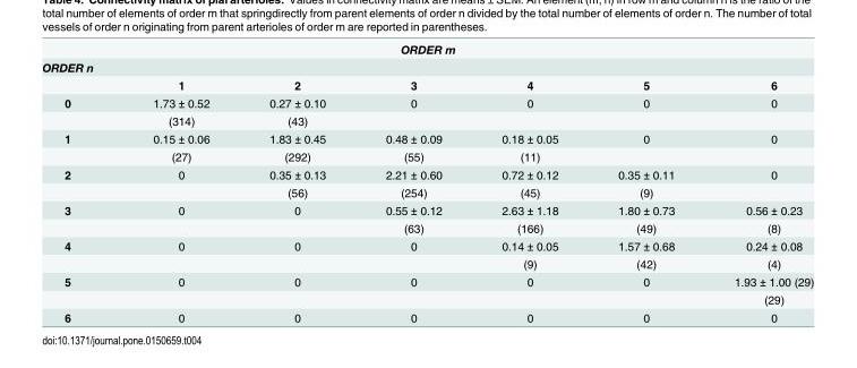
<table><tbody><tr><td colspan="7">ORDER m</td></tr><tr><td colspan="7">ORDER n</td></tr><tr><td></td><td>1</td><td>2</td><td>3</td><td>4</td><td>5</td><td>6</td></tr><tr><td rowspan="2">0</td><td>1.73 ± 0.52</td><td>0.27 ± 0.10</td><td>0</td><td>0</td><td>0</td><td>0</td></tr><tr><td>(314)</td><td>(43)</td><td></td><td></td><td></td><td></td></tr><tr><td rowspan="2">1</td><td>0.15 ± 0.06</td><td>1.83 ± 0.45</td><td>0.48 ± 0.09</td><td>0.18 ± 0.05</td><td>0</td><td>0</td></tr><tr><td>(27)</td><td>(292)</td><td>(55)</td><td>(11)</td><td></td><td></td></tr><tr><td rowspan="2">2</td><td>0</td><td>0.35 ± 0.13</td><td>2.21 ± 0.60</td><td>0.72 ± 0.12</td><td>0.35 ± 0.11</td><td>0</td></tr><tr><td></td><td>(56)</td><td>(254)</td><td>(45)</td><td>(9)</td><td></td></tr><tr><td rowspan="2">3</td><td>0</td><td>0</td><td>0.55 ± 0.12</td><td>2.63 ± 1.18</td><td>1.80 ± 0.73</td><td>0.56 ± 0.23</td></tr><tr><td></td><td></td><td>(63)</td><td>(166)</td><td>(49)</td><td>(8)</td></tr><tr><td rowspan="2">4</td><td>0</td><td>0</td><td>0</td><td>0.14 ± 0.05</td><td>1.57 ± 0.68</td><td>0.24 ± 0.08</td></tr><tr><td></td><td></td><td></td><td>(9)</td><td>(42)</td><td>(4)</td></tr><tr><td rowspan="2">5</td><td>0</td><td>0</td><td>0</td><td>0</td><td>0</td><td>1.93 ± 1.00 (29)</td></tr><tr><td></td><td></td><td></td><td></td><td></td><td>(29)</td></tr><tr><td>6</td><td>0</td><td>0</td><td>0</td><td>0</td><td>0</td><td>0</td></tr></tbody></table>